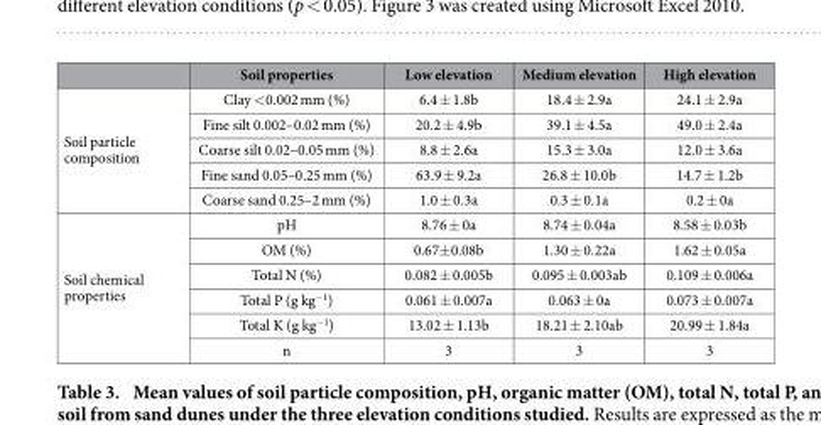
<table><thead><tr><td></td><td>Soil properties</td><td>Low elevation</td><td>Medium elevation</td><td>High elevation</td></tr></thead><tbody><tr><td rowspan="5">Soil particle composition</td><td>Clay &lt; 0.002 mm (%)</td><td>6.4 ± 1.8b</td><td>18.4 ± 2.9a</td><td>24.1 ± 2.9a</td></tr><tr><td>Fine silt 0.002–0.02 mm (%)</td><td>20.2 ± 4.9b</td><td>39.1 ± 4.5a</td><td>49.0 ± 2.4a</td></tr><tr><td>Coarse silt 0.02–0.05 mm (%)</td><td>8.8 ± 2.6a</td><td>15.3 ± 3.0a</td><td>12.0 ± 3.6a</td></tr><tr><td>Fine sand 0.05–0.25 mm (%)</td><td>63.9 ± 9.2a</td><td>26.8 ± 10.0b</td><td>14.7 ± 1.2b</td></tr><tr><td>Coarse sand 0.25–2 mm (%)</td><td>1.0 ± 0.3a</td><td>0.3 ± 0.1a</td><td>0.2 ± 0a</td></tr><tr><td rowspan="6">Soil chemical properties</td><td>pH</td><td>8.76 ± 0a</td><td>8.74 ± 0.04a</td><td>8.58 ± 0.03b</td></tr><tr><td>OM (%)</td><td>0.67± 0.08b</td><td>1.30 ± 0.22a</td><td>1.62 ± 0.05a</td></tr><tr><td>Total N (%)</td><td>0.082 ± 0.005b</td><td>0.095 ± 0.003ab</td><td>0.109 ± 0.006a</td></tr><tr><td>Total P (g kg<sup>−1</sup>)</td><td>0.061 ± 0.007a</td><td>0.063 ± 0a</td><td>0.073 ± 0.007a</td></tr><tr><td>Total K (g kg<sup>−1</sup>)</td><td>13.02 ± 1.13b</td><td>18.21 ± 2.10ab</td><td>20.99 ± 1.84a</td></tr><tr><td>n</td><td>3</td><td>3</td><td>3</td></tr></tbody></table>